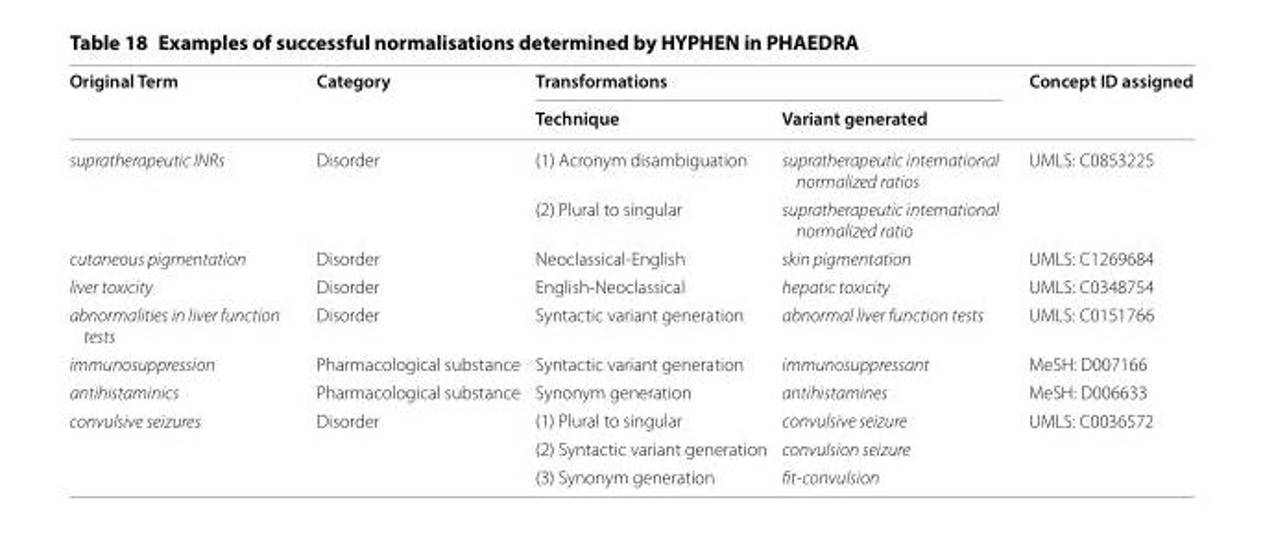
<table><thead><tr><td rowspan="2">Original Term</td><td rowspan="2">Category</td><td colspan="2">Transformations</td><td rowspan="2">Concept ID assigned</td></tr><tr><td>Technique</td><td>Variant generated</td></tr></thead><tbody><tr><td rowspan="2">supratherapeutic INRs</td><td rowspan="2">Disorder</td><td>(1) Acronym disambiguation</td><td>supratherapeutic international normalized ratios</td><td rowspan="2">UMLS: C0853225</td></tr><tr><td>(2) Plural to singular</td><td>supratherapeutic international normalized ratio</td></tr><tr><td>cutaneous pigmentation</td><td>Disorder</td><td>Neoclassical‑English</td><td>skin pigmentation</td><td>UMLS: C1269684</td></tr><tr><td>liver toxicity</td><td>Disorder</td><td>English‑Neoclassical</td><td>hepatic toxicity</td><td>UMLS: C0348754</td></tr><tr><td>abnormalities in liver function tests</td><td>Disorder</td><td>Syntactic variant generation</td><td>abnormal liver function tests</td><td>UMLS: C0151766</td></tr><tr><td>immunosuppression</td><td>Pharmacological substance</td><td>Syntactic variant generation</td><td>immunosuppressant</td><td>MeSH: D007166</td></tr><tr><td>antihistaminics</td><td>Pharmacological substance</td><td>Synonym generation</td><td>antihistamines</td><td>MeSH: D006633</td></tr><tr><td rowspan="3">convulsive seizures</td><td rowspan="3">Disorder</td><td>(1) Plural to singular</td><td>convulsive seizure</td><td rowspan="3">UMLS: C0036572</td></tr><tr><td>(2) Syntactic variant generation</td><td>convulsion seizure</td></tr><tr><td>(3) Synonym generation</td><td>fit-convulsion</td></tr></tbody></table>